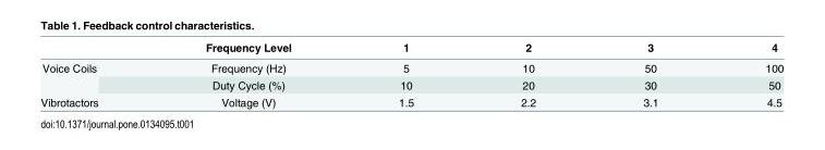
<table><thead><tr><td></td><td>Frequency Level</td><td>1</td><td>2</td><td>3</td><td>4</td></tr></thead><tbody><tr><td rowspan="2">Voice Coils</td><td>Frequency (Hz)</td><td>5</td><td>10</td><td>50</td><td>100</td></tr><tr><td>Duty Cycle (%)</td><td>10</td><td>20</td><td>30</td><td>50</td></tr><tr><td>Vibrotactors</td><td>Voltage (V)</td><td>1.5</td><td>2.2</td><td>3.1</td><td>4.5</td></tr></tbody></table>